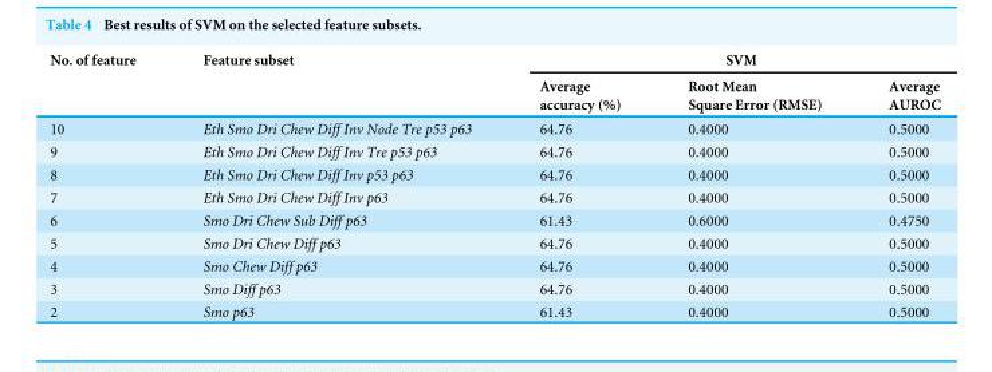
<table><thead><tr><td rowspan="2">No. of feature</td><td rowspan="2">Feature subset</td><td colspan="3">SVM</td></tr><tr><td>Average accuracy (%)</td><td>Root Mean Square Error (RMSE)</td><td>Average AUROC</td></tr></thead><tbody><tr><td>10</td><td>Eth Smo Dri Chew Diff Inv Node Tre p53 p63</td><td>64.76</td><td>0.4000</td><td>0.5000</td></tr><tr><td>9</td><td>Eth Smo Dri Chew Diff Inv Tre p53 p63</td><td>64.76</td><td>0.4000</td><td>0.5000</td></tr><tr><td>8</td><td>Eth Smo Dri Chew Diff Inv p53 p63</td><td>64.76</td><td>0.4000</td><td>0.5000</td></tr><tr><td>7</td><td>Eth Smo Dri Chew Diff Inv p63</td><td>64.76</td><td>0.4000</td><td>0.5000</td></tr><tr><td>6</td><td>Smo Dri Chew Sub Diff p63</td><td>61.43</td><td>0.6000</td><td>0.4750</td></tr><tr><td>5</td><td>Smo Dri Chew Diff p63</td><td>64.76</td><td>0.4000</td><td>0.5000</td></tr><tr><td>4</td><td>Smo Chew Diff p63</td><td>64.76</td><td>0.4000</td><td>0.5000</td></tr><tr><td>3</td><td>Smo Diff p63</td><td>64.76</td><td>0.4000</td><td>0.5000</td></tr><tr><td>2</td><td>Smo p63</td><td>61.43</td><td>0.4000</td><td>0.5000</td></tr></tbody></table>